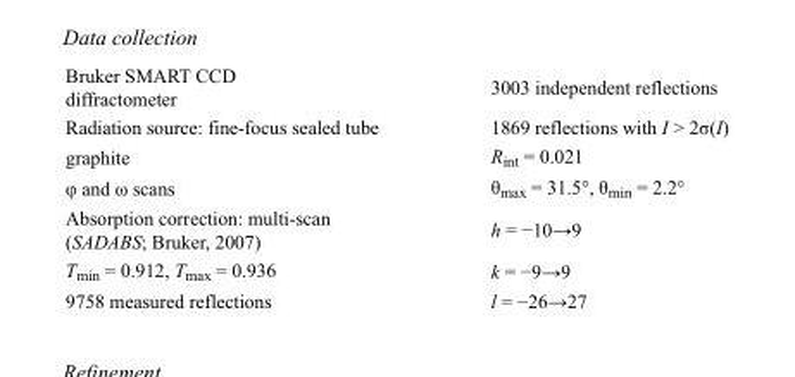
<table><tbody><tr><td>Bruker SMART CCD diffractometer</td><td>3003 independent reflections</td></tr><tr><td>Radiation source: fine-focus sealed tube</td><td>1869 reflections with I &gt; 2σ(I)</td></tr><tr><td>graphite</td><td>R<sub>int</sub> = 0.021</td></tr><tr><td>φ and ω scans</td><td>θ<sub>max</sub> = 31.5°, θ<sub>min</sub> = 2.2°</td></tr><tr><td>Absorption correction: multi-scan (SADABS; Bruker, 2007)</td><td>h = −10→9</td></tr><tr><td>T<sub>min</sub> = 0.912, T<sub>max</sub> = 0.936</td><td>k = −9→9</td></tr><tr><td>9758 measured reflections</td><td>l = −26→27</td></tr></tbody></table>